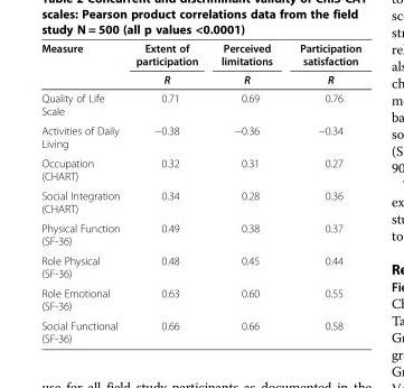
<table><thead><tr><td rowspan="2">Measure</td><td rowspan="2">Extent of participation R</td><td rowspan="2">Perceived limitations R</td><td rowspan="2">Participation satisfaction R</td></tr><tr></tr></thead><tbody><tr><td>Quality of Life Scale</td><td>0.71</td><td>0.69</td><td>0.76</td></tr><tr><td>Activities of Daily Living</td><td>−0.38</td><td>−0.36</td><td>−0.34</td></tr><tr><td>Occupation (CHART)</td><td>0.32</td><td>0.31</td><td>0.27</td></tr><tr><td>Social Integration (CHART)</td><td>0.34</td><td>0.28</td><td>0.36</td></tr><tr><td>Physical Function (SF-36)</td><td>0.49</td><td>0.38</td><td>0.37</td></tr><tr><td>Role Physical (SF-36)</td><td>0.48</td><td>0.45</td><td>0.44</td></tr><tr><td>Role Emotional (SF-36)</td><td>0.63</td><td>0.60</td><td>0.55</td></tr><tr><td>Social Functional (SF-36)</td><td>0.66</td><td>0.66</td><td>0.58</td></tr></tbody></table>